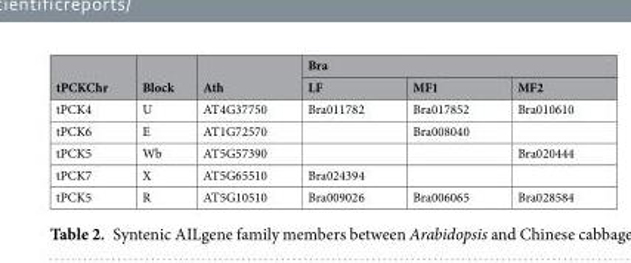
<table><thead><tr><td rowspan="2">tPCKChr</td><td rowspan="2">Block</td><td rowspan="2">Ath</td><td colspan="3">Bra</td></tr><tr><td>LF</td><td>MF1</td><td>MF2</td></tr></thead><tbody><tr><td>tPCK4</td><td>U</td><td>AT4G37750</td><td>Bra011782</td><td>Bra017852</td><td>Bra010610</td></tr><tr><td>tPCK6</td><td>E</td><td>AT1G72570</td><td></td><td>Bra008040</td><td></td></tr><tr><td>tPCK5</td><td>Wb</td><td>AT5G57390</td><td></td><td></td><td>Bra020444</td></tr><tr><td>tPCK7</td><td>X</td><td>AT5G65510</td><td>Bra024394</td><td></td><td></td></tr><tr><td>tPCK5</td><td>R</td><td>AT5G10510</td><td>Bra009026</td><td>Bra006065</td><td>Bra028584</td></tr></tbody></table>